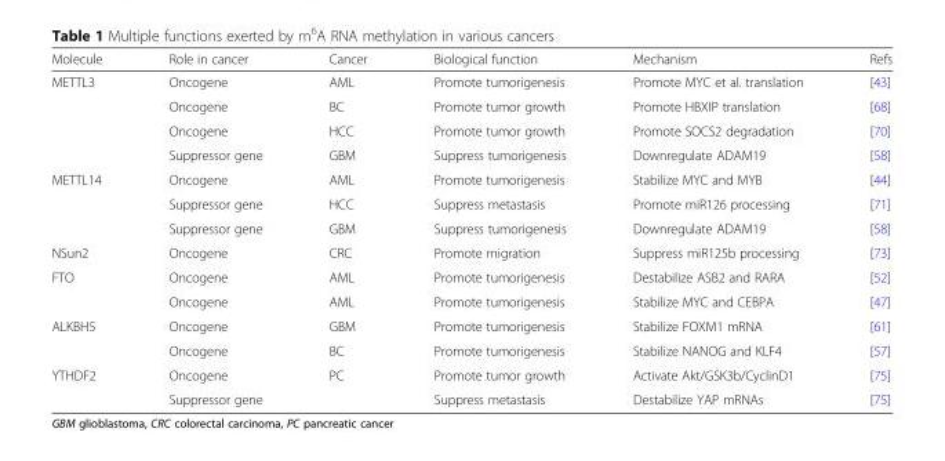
<table><thead><tr><td>Molecule</td><td>Role in cancer</td><td>Cancer</td><td>Biological function</td><td>Mechanism</td><td>Refs</td></tr></thead><tbody><tr><td rowspan="4">METTL3</td><td>Oncogene</td><td>AML</td><td>Promote tumorigenesis</td><td>Promote MYC et al. translation</td><td>[43]</td></tr><tr><td>Oncogene</td><td>BC</td><td>Promote tumor growth</td><td>Promote HBXIP translation</td><td>[68]</td></tr><tr><td>Oncogene</td><td>HCC</td><td>Promote tumor growth</td><td>Promote SOCS2 degradation</td><td>[70]</td></tr><tr><td>Suppressor gene</td><td>GBM</td><td>Suppress tumorigenesis</td><td>Downregulate ADAM19</td><td>[58]</td></tr><tr><td rowspan="3">METTL14</td><td>Oncogene</td><td>AML</td><td>Promote tumorigenesis</td><td>Stabilize MYC and MYB</td><td>[44]</td></tr><tr><td>Suppressor gene</td><td>HCC</td><td>Suppress metastasis</td><td>Promote miR126 processing</td><td>[71]</td></tr><tr><td>Suppressor gene</td><td>GBM</td><td>Suppress tumorigenesis</td><td>Downregulate ADAM19</td><td>[58]</td></tr><tr><td>NSun2</td><td>Oncogene</td><td>CRC</td><td>Promote migration</td><td>Suppress miR125b processing</td><td>[73]</td></tr><tr><td rowspan="2">FTO</td><td>Oncogene</td><td>AML</td><td>Promote tumorigenesis</td><td>Destabilize ASB2 and RARA</td><td>[52]</td></tr><tr><td>Oncogene</td><td>AML</td><td>Promote tumorigenesis</td><td>Stabilize MYC and CEBPA</td><td>[47]</td></tr><tr><td rowspan="2">ALKBH5</td><td>Oncogene</td><td>GBM</td><td>Promote tumorigenesis</td><td>Stabilize FOXM1 mRNA</td><td>[61]</td></tr><tr><td>Oncogene</td><td>BC</td><td>Promote tumorigenesis</td><td>Stabilize NANOG and KLF4</td><td>[57]</td></tr><tr><td rowspan="2">YTHDF2</td><td>Oncogene</td><td>PC</td><td>Promote tumor growth</td><td>Activate Akt/GSK3b/CyclinD1</td><td>[75]</td></tr><tr><td>Suppressor gene</td><td></td><td>Suppress metastasis</td><td>Destabilize YAP mRNAs</td><td>[75]</td></tr></tbody></table>